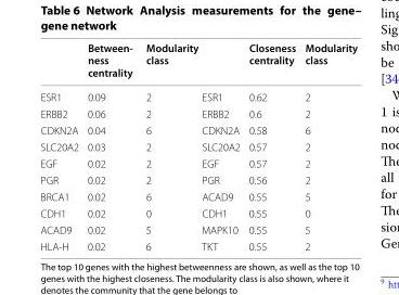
<table><thead><tr><td></td><td>Between- ness centrality</td><td>Modularity class</td><td></td><td>Closeness centrality</td><td>Modularity class</td></tr></thead><tbody><tr><td>ESR1</td><td>0.09</td><td>2</td><td>ESR1</td><td>0.62</td><td>2</td></tr><tr><td>ERBB2</td><td>0.06</td><td>2</td><td>ERBB2</td><td>0.6</td><td>2</td></tr><tr><td>CDKN2A</td><td>0.04</td><td>6</td><td>CDKN2A</td><td>0.58</td><td>6</td></tr><tr><td>SLC20A2</td><td>0.03</td><td>2</td><td>SLC20A2</td><td>0.57</td><td>2</td></tr><tr><td>EGF</td><td>0.02</td><td>2</td><td>EGF</td><td>0.57</td><td>2</td></tr><tr><td>PGR</td><td>0.02</td><td>2</td><td>PGR</td><td>0.56</td><td>2</td></tr><tr><td>BRCA1</td><td>0.02</td><td>6</td><td>ACAD9</td><td>0.55</td><td>5</td></tr><tr><td>CDH1</td><td>0.02</td><td>0</td><td>CDH1</td><td>0.55</td><td>0</td></tr><tr><td>ACAD9</td><td>0.02</td><td>5</td><td>MAPK10</td><td>0.55</td><td>5</td></tr><tr><td>HLA-H</td><td>0.02</td><td>6</td><td>TKT</td><td>0.55</td><td>2</td></tr></tbody></table>